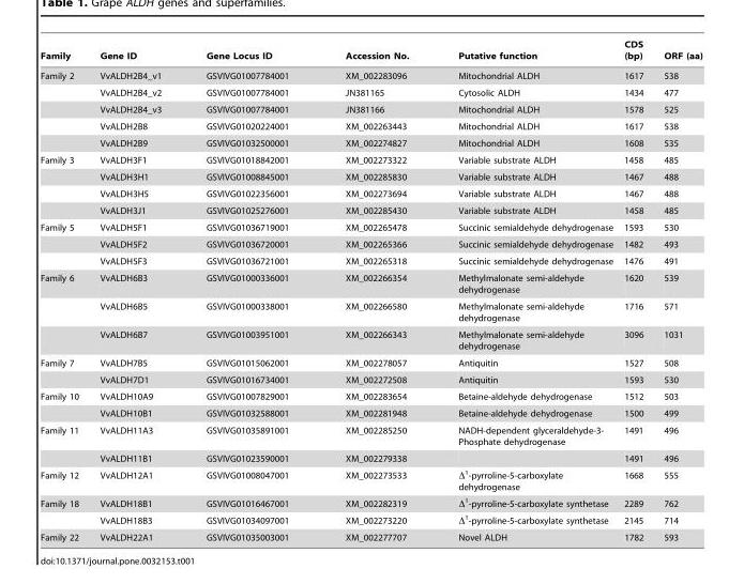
<table><thead><tr><td>Family</td><td>Gene ID</td><td>Gene Locus ID</td><td>Accession No.</td><td>Putative function</td><td>CDS (bp)</td><td>ORF (aa)</td></tr></thead><tbody><tr><td rowspan="5">Family 2</td><td>VvALDH2B4_v1</td><td>GSVIVG01007784001</td><td>XM_002283096</td><td>Mitochondrial ALDH</td><td>1617</td><td>538</td></tr><tr><td>VvALDH2B4_v2</td><td>GSVIVG01007784001</td><td>JN381165</td><td>Cytosolic ALDH</td><td>1434</td><td>477</td></tr><tr><td>VvALDH2B4_v3</td><td>GSVIVG01007784001</td><td>JN381166</td><td>Mitochondrial ALDH</td><td>1578</td><td>525</td></tr><tr><td>VvALDH2B8</td><td>GSVIVG01020224001</td><td>XM_002263443</td><td>Mitochondrial ALDH</td><td>1617</td><td>538</td></tr><tr><td>VvALDH2B9</td><td>GSVIVG01032500001</td><td>XM_002274827</td><td>Mitochondrial ALDH</td><td>1608</td><td>535</td></tr><tr><td rowspan="4">Family 3</td><td>VvALDH3F1</td><td>GSVIVG01018842001</td><td>XM_002273322</td><td>Variable substrate ALDH</td><td>1458</td><td>485</td></tr><tr><td>VvALDH3H1</td><td>GSVIVG01008845001</td><td>XM_002285830</td><td>Variable substrate ALDH</td><td>1467</td><td>488</td></tr><tr><td>VvALDH3H5</td><td>GSVIVG01022356001</td><td>XM_002273694</td><td>Variable substrate ALDH</td><td>1467</td><td>488</td></tr><tr><td>VvALDH3J1</td><td>GSVIVG01025276001</td><td>XM_002285430</td><td>Variable substrate ALDH</td><td>1458</td><td>485</td></tr><tr><td rowspan="3">Family 5</td><td>VvALDH5F1</td><td>GSVIVG01036719001</td><td>XM_002265478</td><td>Succinic semialdehyde dehydrogenase</td><td>1593</td><td>530</td></tr><tr><td>VvALDH5F2</td><td>GSVIVG01036720001</td><td>XM_002265366</td><td>Succinic semialdehyde dehydrogenase</td><td>1482</td><td>493</td></tr><tr><td>VvALDH5F3</td><td>GSVIVG01036721001</td><td>XM_002265318</td><td>Succinic semialdehyde dehydrogenase</td><td>1476</td><td>491</td></tr><tr><td rowspan="3">Family 6</td><td>VvALDH6B3</td><td>GSVIVG01000336001</td><td>XM_002266354</td><td>Methylmalonate semi-aldehyde dehydrogenase</td><td>1620</td><td>539</td></tr><tr><td>VvALDH6B5</td><td>GSVIVG01000338001</td><td>XM_002266580</td><td>Methylmalonate semi-aldehyde dehydrogenase</td><td>1716</td><td>571</td></tr><tr><td>VvALDH6B7</td><td>GSVIVG01003951001</td><td>XM_002266343</td><td>Methylmalonate semi-aldehyde dehydrogenase</td><td>3096</td><td>1031</td></tr><tr><td rowspan="2">Family 7</td><td>VvALDH7B5</td><td>GSVIVG01015062001</td><td>XM_002278057</td><td>Antiquitin</td><td>1527</td><td>508</td></tr><tr><td>VvALDH7D1</td><td>GSVIVG01016734001</td><td>XM_002272508</td><td>Antiquitin</td><td>1593</td><td>530</td></tr><tr><td rowspan="2">Family 10</td><td>VvALDH10A9</td><td>GSVIVG01007829001</td><td>XM_002283654</td><td>Betaine-aldehyde dehydrogenase</td><td>1512</td><td>503</td></tr><tr><td>VvALDH10B1</td><td>GSVIVG01032588001</td><td>XM_002281948</td><td>Betaine-aldehyde dehydrogenase</td><td>1500</td><td>499</td></tr><tr><td rowspan="2">Family 11</td><td>VvALDH11A3</td><td>GSVIVG01035891001</td><td>XM_002285250</td><td>NADH-dependent glyceraldehyde-3- Phosphate dehydrogenase</td><td>1491</td><td>496</td></tr><tr><td>VvALDH11B1</td><td>GSVIVG01023590001</td><td>XM_002279338</td><td></td><td>1491</td><td>496</td></tr><tr><td>Family 12</td><td>VvALDH12A1</td><td>GSVIVG01008047001</td><td>XM_002273533</td><td>Δ<sup>1</sup>-pyrroline-5-carboxylate dehydrogenase</td><td>1668</td><td>555</td></tr><tr><td rowspan="2">Family 18</td><td>VvALDH18B1</td><td>GSVIVG01016467001</td><td>XM_002282319</td><td>Δ<sup>1</sup>-pyrroline-5-carboxylate synthetase</td><td>2289</td><td>762</td></tr><tr><td>VvALDH18B3</td><td>GSVIVG01034097001</td><td>XM_002273220</td><td>Δ<sup>1</sup>-pyrroline-5-carboxylate synthetase</td><td>2145</td><td>714</td></tr><tr><td>Family 22</td><td>VvALDH22A1</td><td>GSVIVG01035003001</td><td>XM_002277707</td><td>Novel ALDH</td><td>1782</td><td>593</td></tr></tbody></table>